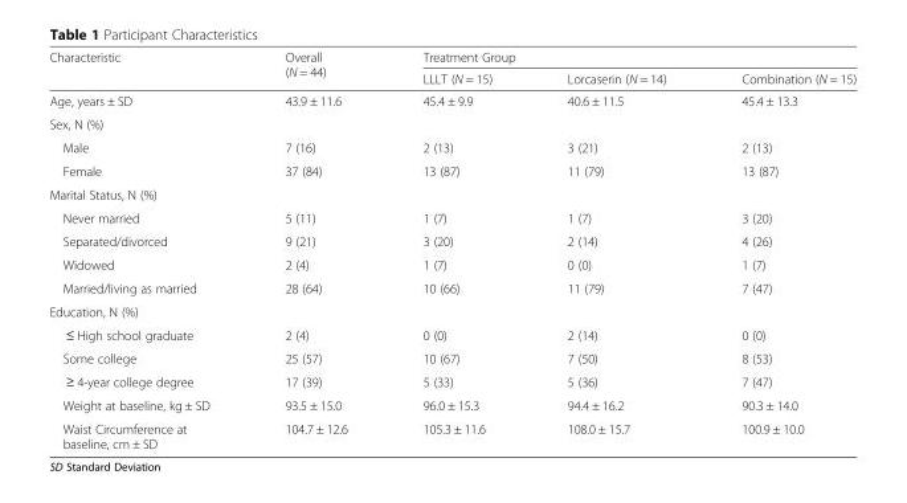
<table><thead><tr><td rowspan="2">Characteristic</td><td rowspan="2">Overall (N = 44)</td><td colspan="3">Treatment Group</td></tr><tr><td>LLLT (N = 15)</td><td>Lorcaserin (N = 14)</td><td>Combination (N = 15)</td></tr></thead><tbody><tr><td>Age, years ± SD</td><td>43.9 ± 11.6</td><td>45.4 ± 9.9</td><td>40.6 ± 11.5</td><td>45.4 ± 13.3</td></tr><tr><td colspan="5">Sex, N (%)</td></tr><tr><td>Male</td><td>7 (16)</td><td>2 (13)</td><td>3 (21)</td><td>2 (13)</td></tr><tr><td>Female</td><td>37 (84)</td><td>13 (87)</td><td>11 (79)</td><td>13 (87)</td></tr><tr><td colspan="5">Marital Status, N (%)</td></tr><tr><td>Never married</td><td>5 (11)</td><td>1 (7)</td><td>1 (7)</td><td>3 (20)</td></tr><tr><td>Separated/divorced</td><td>9 (21)</td><td>3 (20)</td><td>2 (14)</td><td>4 (26)</td></tr><tr><td>Widowed</td><td>2 (4)</td><td>1 (7)</td><td>0 (0)</td><td>1 (7)</td></tr><tr><td>Married/living as married</td><td>28 (64)</td><td>10 (66)</td><td>11 (79)</td><td>7 (47)</td></tr><tr><td colspan="5">Education, N (%)</td></tr><tr><td>≤ High school graduate</td><td>2 (4)</td><td>0 (0)</td><td>2 (14)</td><td>0 (0)</td></tr><tr><td>Some college</td><td>25 (57)</td><td>10 (67)</td><td>7 (50)</td><td>8 (53)</td></tr><tr><td>≥ 4-year college degree</td><td>17 (39)</td><td>5 (33)</td><td>5 (36)</td><td>7 (47)</td></tr><tr><td>Weight at baseline, kg ± SD</td><td>93.5 ± 15.0</td><td>96.0 ± 15.3</td><td>94.4 ± 16.2</td><td>90.3 ± 14.0</td></tr><tr><td>Waist Circumference at baseline, cm ± SD</td><td>104.7 ± 12.6</td><td>105.3 ± 11.6</td><td>108.0 ± 15.7</td><td>100.9 ± 10.0</td></tr></tbody></table>